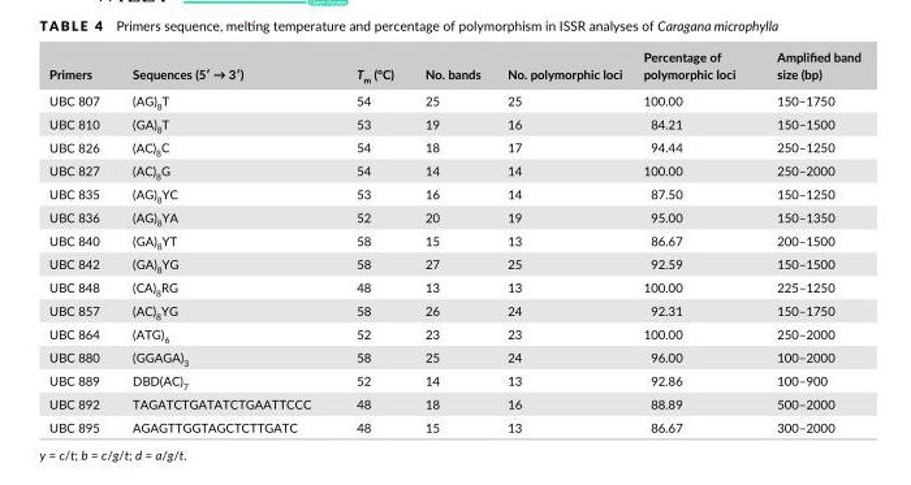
<table><thead><tr><td>Primers</td><td>Sequences (5′ → 3′)</td><td>T<sub>m</sub> (°C)</td><td>No. bands</td><td>No. polymorphic loci</td><td>Percentage of polymorphic loci</td><td>Amplified band size (bp)</td></tr></thead><tbody><tr><td>UBC 807</td><td>(AG)<sub>8</sub>T</td><td>54</td><td>25</td><td>25</td><td>100.00</td><td>150–1750</td></tr><tr><td>UBC 810</td><td>(GA)<sub>8</sub>T</td><td>53</td><td>19</td><td>16</td><td>84.21</td><td>150–1500</td></tr><tr><td>UBC 826</td><td>(AC)<sub>8</sub>C</td><td>54</td><td>18</td><td>17</td><td>94.44</td><td>250–1250</td></tr><tr><td>UBC 827</td><td>(AC)<sub>8</sub>G</td><td>54</td><td>14</td><td>14</td><td>100.00</td><td>250–2000</td></tr><tr><td>UBC 835</td><td>(AG)<sub>8</sub>YC</td><td>53</td><td>16</td><td>14</td><td>87.50</td><td>150–1250</td></tr><tr><td>UBC 836</td><td>(AG)<sub>8</sub>YA</td><td>52</td><td>20</td><td>19</td><td>95.00</td><td>150–1350</td></tr><tr><td>UBC 840</td><td>(GA)<sub>8</sub>YT</td><td>58</td><td>15</td><td>13</td><td>86.67</td><td>200–1500</td></tr><tr><td>UBC 842</td><td>(GA)<sub>8</sub>YG</td><td>58</td><td>27</td><td>25</td><td>92.59</td><td>150–1500</td></tr><tr><td>UBC 848</td><td>(CA)<sub>8</sub>RG</td><td>48</td><td>13</td><td>13</td><td>100.00</td><td>225–1250</td></tr><tr><td>UBC 857</td><td>(AC)<sub>8</sub>YG</td><td>58</td><td>26</td><td>24</td><td>92.31</td><td>150–1750</td></tr><tr><td>UBC 864</td><td>(ATG)<sub>6</sub></td><td>52</td><td>23</td><td>23</td><td>100.00</td><td>250–2000</td></tr><tr><td>UBC 880</td><td>(GGAGA)<sub>3</sub></td><td>58</td><td>25</td><td>24</td><td>96.00</td><td>100–2000</td></tr><tr><td>UBC 889</td><td>DBD(AC)<sub>7</sub></td><td>52</td><td>14</td><td>13</td><td>92.86</td><td>100–900</td></tr><tr><td>UBC 892</td><td>TAGATCTGATATCTGAATTCCC</td><td>48</td><td>18</td><td>16</td><td>88.89</td><td>500–2000</td></tr><tr><td>UBC 895</td><td>AGAGTTGGTAGCTCTTGATC</td><td>48</td><td>15</td><td>13</td><td>86.67</td><td>300–2000</td></tr></tbody></table>